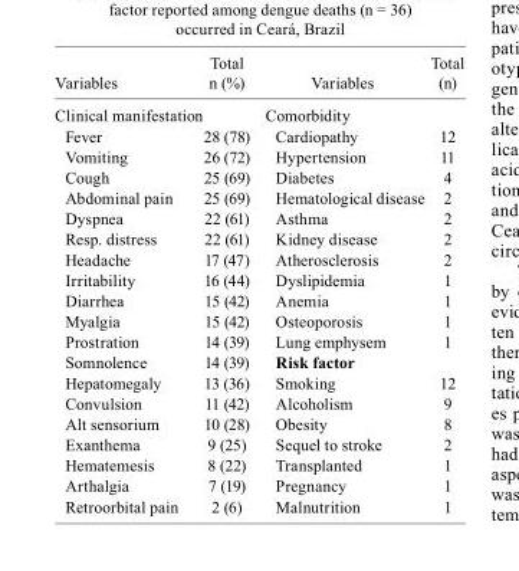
<table><tbody><tr><td>Variables</td><td>Total n (%)</td><td>Variables</td><td>Total (n)</td></tr><tr><td>Clinical manifestation</td><td></td><td>Comorbidity</td><td></td></tr><tr><td>Fever</td><td>28 (78)</td><td>Cardiopathy</td><td>12</td></tr><tr><td>Vomiting</td><td>26 (72)</td><td>Hypertension</td><td>11</td></tr><tr><td>Cough</td><td>25 (69)</td><td>Diabetes</td><td>4</td></tr><tr><td>Abdominal pain</td><td>25 (69)</td><td>Hematological disease</td><td>2</td></tr><tr><td>Dyspnea</td><td>22 (61)</td><td>Asthma</td><td>2</td></tr><tr><td>Resp. distress</td><td>22 (61)</td><td>Kidney disease</td><td>2</td></tr><tr><td>Headache</td><td>17 (47)</td><td>Atherosclerosis</td><td>2</td></tr><tr><td>Irritability</td><td>16 (44)</td><td>Dyslipidemia</td><td>1</td></tr><tr><td>Diarrhea</td><td>15 (42)</td><td>Anemia</td><td>1</td></tr><tr><td>Myalgia</td><td>15 (42)</td><td>Osteoporosis</td><td>1</td></tr><tr><td>Prostration</td><td>14 (39)</td><td>Lung emphysem</td><td>1</td></tr><tr><td>Somnolence</td><td>14 (39)</td><td>Risk factor</td><td></td></tr><tr><td>Hepatomegaly</td><td>13 (36)</td><td>Smoking</td><td>12</td></tr><tr><td>Convulsion</td><td>11 (42)</td><td>Alcoholism</td><td>9</td></tr><tr><td>Alt sensorium</td><td>10 (28)</td><td>Obesity</td><td>8</td></tr><tr><td>Exanthema</td><td>9 (25)</td><td>Sequel to stroke</td><td>2</td></tr><tr><td>Hematemesis</td><td>8 (22)</td><td>Transplanted</td><td>1</td></tr><tr><td>Arthalgia</td><td>7 (19)</td><td>Pregnancy</td><td>1</td></tr><tr><td>Retroorbital pain</td><td>2 (6)</td><td>Malnutrition</td><td>1</td></tr></tbody></table>